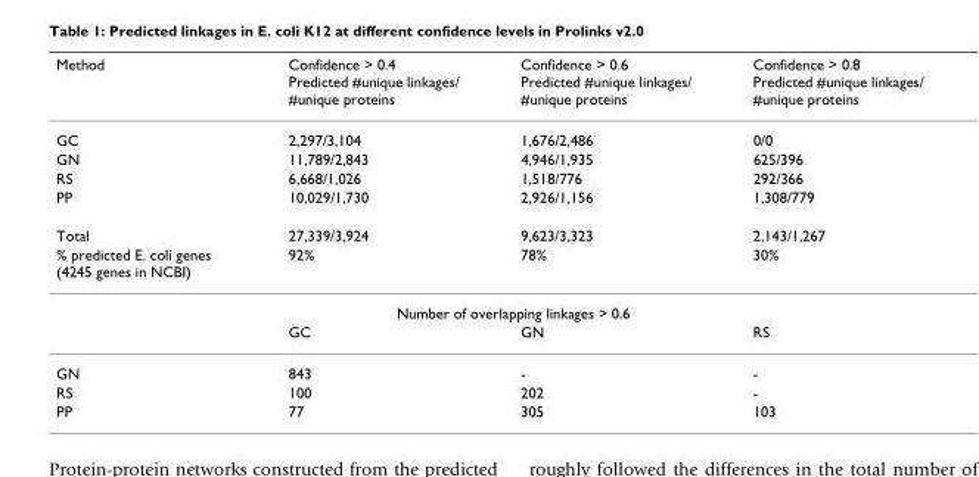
<table><thead><tr><td>Method</td><td>Confidence &gt; 0.4 Predicted #unique linkages/ #unique proteins</td><td>Confidence &gt; 0.6 Predicted #unique linkages/ #unique proteins</td><td>Confidence &gt; 0.8 Predicted #unique linkages/ #unique proteins</td></tr></thead><tbody><tr><td>GC</td><td>2,297/3,104</td><td>1,676/2,486</td><td>0/0</td></tr><tr><td>GN</td><td>11,789/2,843</td><td>4,946/1,935</td><td>625/396</td></tr><tr><td>RS</td><td>6,668/1,026</td><td>1,518/776</td><td>292/366</td></tr><tr><td>PP</td><td>10,029/1,730</td><td>2,926/1,156</td><td>1,308/779</td></tr><tr><td>Total</td><td>27,339/3,924</td><td>9,623/3,323</td><td>2,143/1,267</td></tr><tr><td>% predicted E. coli genes (4245 genes in NCBI)</td><td>92%</td><td>78%</td><td>30%</td></tr><tr><td colspan="4">Number of overlapping linkages &gt; 0.6</td></tr><tr><td></td><td>GC</td><td>GN</td><td>RS</td></tr><tr><td>GN</td><td>843</td><td>-</td><td>-</td></tr><tr><td>RS</td><td>100</td><td>202</td><td>-</td></tr><tr><td>PP</td><td>77</td><td>305</td><td>103</td></tr></tbody></table>